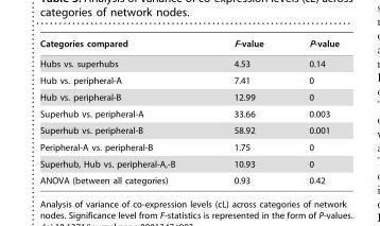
<table><thead><tr><td>Categories compared</td><td>F-value</td><td>P-value</td></tr></thead><tbody><tr><td>Hubs vs. superhubs</td><td>4.53</td><td>0.14</td></tr><tr><td>Hub vs. peripheral-A</td><td>7.41</td><td>0</td></tr><tr><td>Hub vs. peripheral-B</td><td>12.99</td><td>0</td></tr><tr><td>Superhub vs. peripheral-A</td><td>33.66</td><td>0.003</td></tr><tr><td>Superhub vs. peripheral-B</td><td>58.92</td><td>0.001</td></tr><tr><td>Peripheral-A vs. peripheral-B</td><td>1.75</td><td>0</td></tr><tr><td>Superhub, Hub vs. peripheral-A,-B</td><td>10.93</td><td>0</td></tr><tr><td>ANOVA (between all categories)</td><td>0.93</td><td>0.42</td></tr></tbody></table>